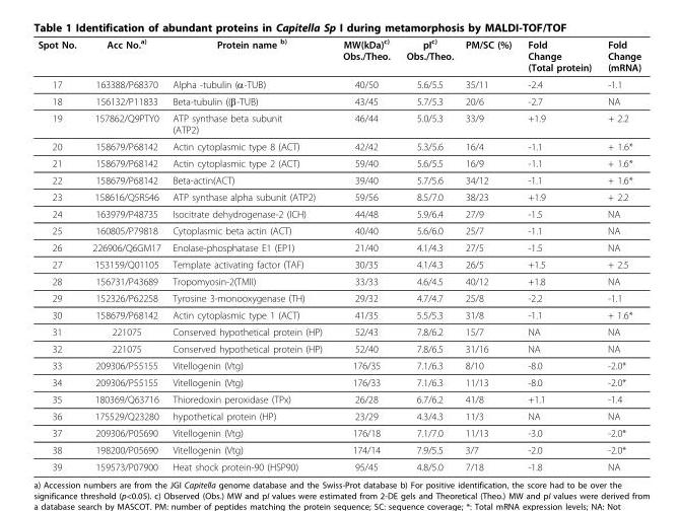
<table><thead><tr><td>Spot No.</td><td>Acc No.<sup>a)</sup></td><td>Protein name <sup>b)</sup></td><td>MW(kDa)<sup>c)</sup> Obs./Theo.</td><td>pI<sup>c)</sup> Obs./Theo.</td><td>PM/SC (%)</td><td>Fold Change (Total protein)</td><td>Fold Change (mRNA)</td></tr></thead><tbody><tr><td>17</td><td>163388/P68370</td><td>Alpha -tubulin (α-TUB)</td><td>40/50</td><td>5.6/5.5</td><td>35/11</td><td>-2.4</td><td>-1.1</td></tr><tr><td>18</td><td>156132/P11833</td><td>Beta-tubulin ((β-TUB)</td><td>43/45</td><td>5.7/5.3</td><td>20/6</td><td>-2.7</td><td>NA</td></tr><tr><td>19</td><td>157862/Q9PTY0</td><td>ATP synthase beta subunit (ATP2)</td><td>46/44</td><td>5.0/5.3</td><td>33/9</td><td>+1.9</td><td>+ 2.2</td></tr><tr><td>20</td><td>158679/P68142</td><td>Actin cytoplasmic type 8 (ACT)</td><td>42/42</td><td>5.3/5.6</td><td>16/4</td><td>-1.1</td><td>+ 1.6*</td></tr><tr><td>21</td><td>158679/P68142</td><td>Actin cytoplasmic type 2 (ACT)</td><td>59/40</td><td>5.6/5.5</td><td>16/9</td><td>-1.1</td><td>+ 1.6*</td></tr><tr><td>22</td><td>158679/P68142</td><td>Beta-actin(ACT)</td><td>39/40</td><td>5.7/5.6</td><td>34/12</td><td>-1.1</td><td>+ 1.6*</td></tr><tr><td>23</td><td>158616/Q5R546</td><td>ATP synthase alpha subunit (ATP2)</td><td>59/56</td><td>8.5/7.0</td><td>38/23</td><td>+1.9</td><td>+ 2.2</td></tr><tr><td>24</td><td>163979/P48735</td><td>Isocitrate dehydrogenase-2 (ICH)</td><td>44/48</td><td>5.9/6.4</td><td>27/9</td><td>-1.5</td><td>NA</td></tr><tr><td>25</td><td>160805/P79818</td><td>Cytoplasmic beta actin (ACT)</td><td>40/40</td><td>5.6/6.0</td><td>25/7</td><td>-1.1</td><td>NA</td></tr><tr><td>26</td><td>226906/Q6GM17</td><td>Enolase-phosphatase E1 (EP1)</td><td>21/40</td><td>4.1/4.3</td><td>27/5</td><td>-1.5</td><td>NA</td></tr><tr><td>27</td><td>153159/Q01105</td><td>Template activating factor (TAF)</td><td>30/35</td><td>4.1/4.3</td><td>26/5</td><td>+1.5</td><td>+ 2.5</td></tr><tr><td>28</td><td>156731/P43689</td><td>Tropomyosin-2(TMII)</td><td>33/33</td><td>4.6/4.5</td><td>40/12</td><td>+1.8</td><td>NA</td></tr><tr><td>29</td><td>152326/P62258</td><td>Tyrosine 3-monooxygenase (TH)</td><td>29/32</td><td>4.7/4.7</td><td>25/8</td><td>-2.2</td><td>-1.1</td></tr><tr><td>30</td><td>158679/P68142</td><td>Actin cytoplasmic type 1 (ACT)</td><td>41/35</td><td>5.5/5.3</td><td>31/8</td><td>-1.1</td><td>+ 1.6*</td></tr><tr><td>31</td><td>221075</td><td>Conserved hypothetical protein (HP)</td><td>52/43</td><td>7.8/6.2</td><td>15/7</td><td>NA</td><td>NA</td></tr><tr><td>32</td><td>221075</td><td>Conserved hypothetical protein (HP)</td><td>52/40</td><td>7.8/6.5</td><td>31/16</td><td>NA</td><td>NA</td></tr><tr><td>33</td><td>209306/P55155</td><td>Vitellogenin (Vtg)</td><td>176/35</td><td>7.1/6.3</td><td>8/10</td><td>-8.0</td><td>-2.0*</td></tr><tr><td>34</td><td>209306/P55155</td><td>Vitellogenin (Vtg)</td><td>176/33</td><td>7.1/6.3</td><td>11/13</td><td>-8.0</td><td>-2.0*</td></tr><tr><td>35</td><td>180369/Q63716</td><td>Thioredoxin peroxidase (TPx)</td><td>26/28</td><td>6.7/6.2</td><td>41/8</td><td>+1.1</td><td>-1.4</td></tr><tr><td>36</td><td>175529/Q23280</td><td>hypothetical protein (HP)</td><td>23/29</td><td>4.3/4.3</td><td>11/3</td><td>NA</td><td>NA</td></tr><tr><td>37</td><td>209306/P05690</td><td>Vitellogenin (Vtg)</td><td>176/18</td><td>7.1/7.0</td><td>11/13</td><td>-3.0</td><td>-2.0*</td></tr><tr><td>38</td><td>198200/P05690</td><td>Vitellogenin (Vtg)</td><td>174/14</td><td>7.9/5.5</td><td>3/7</td><td>-2.0</td><td>-2.0*</td></tr><tr><td>39</td><td>159573/P07900</td><td>Heat shock protein-90 (HSP90)</td><td>95/45</td><td>4.8/5.0</td><td>7/18</td><td>-1.8</td><td>NA</td></tr></tbody></table>